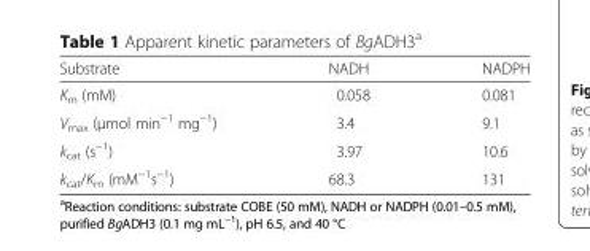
<table><thead><tr><td>Substrate</td><td>NADH</td><td>NADPH</td></tr></thead><tbody><tr><td>K<sub>m</sub> (mM)</td><td>0.058</td><td>0.081</td></tr><tr><td>V<sub>max</sub> (μmol min<sup>−1</sup> mg<sup>−1</sup>)</td><td>3.4</td><td>9.1</td></tr><tr><td>k<sub>cat</sub> (s<sup>−1</sup>)</td><td>3.97</td><td>10.6</td></tr><tr><td>k<sub>cat</sub>/K<sub>m</sub> (mM<sup>−1</sup>s<sup>−1</sup>)</td><td>68.3</td><td>131</td></tr></tbody></table>